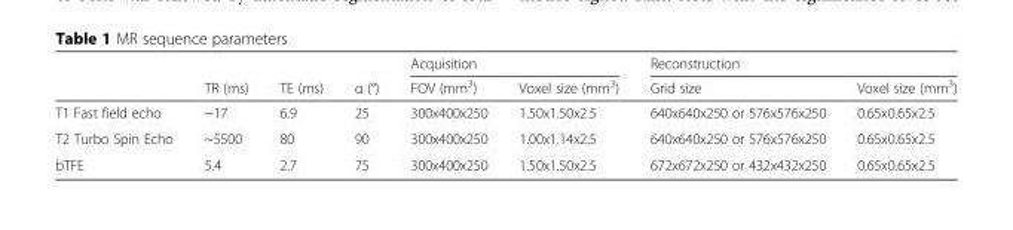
<table><thead><tr><td rowspan="2"></td><td rowspan="2">TR (ms)</td><td rowspan="2">TE (ms)</td><td rowspan="2">α (°)</td><td colspan="2">Acquisition</td><td colspan="2">Reconstruction</td></tr><tr><td>FOV (mm<sup>3</sup>)</td><td>Voxel size (mm<sup>3</sup>)</td><td>Grid size</td><td>Voxel size (mm<sup>3</sup>)</td></tr></thead><tbody><tr><td>T1 Fast field echo</td><td>~17</td><td>6.9</td><td>25</td><td>300x400x250</td><td>1.50x1.50x2.5</td><td>640x640x250 or 576x576x250</td><td>0.65x0.65x2.5</td></tr><tr><td>T2 Turbo Spin Echo</td><td>~5500</td><td>80</td><td>90</td><td>300x400x250</td><td>1.00x1.14x2.5</td><td>640x640x250 or 576x576x250</td><td>0.65x0.65x2.5</td></tr><tr><td>bTFE</td><td>5.4</td><td>2.7</td><td>75</td><td>300x400x250</td><td>1.50x1.50x2.5</td><td>672x672x250 or 432x432x250</td><td>0.65x0.65x2.5</td></tr></tbody></table>